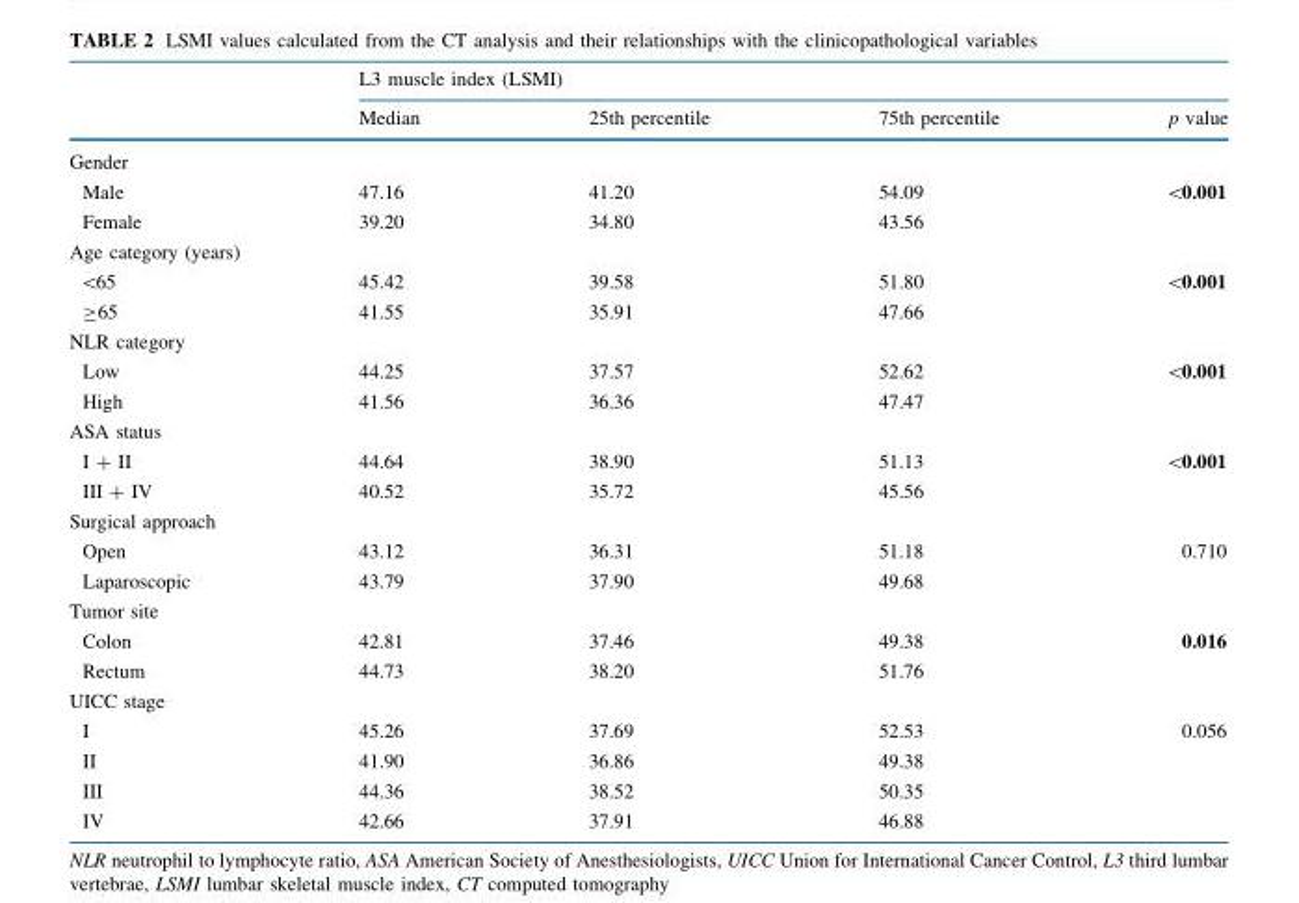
<table><thead><tr><td rowspan="2"></td><td colspan="4">L3 muscle index (LSMI)</td></tr><tr><td>Median</td><td>25th percentile</td><td>75th percentile</td><td>p value</td></tr></thead><tbody><tr><td colspan="5">Gender</td></tr><tr><td>Male</td><td>47.16</td><td>41.20</td><td>54.09</td><td rowspan="2">&lt;0.001</td></tr><tr><td>Female</td><td>39.20</td><td>34.80</td><td>43.56</td></tr><tr><td colspan="5">Age category (years)</td></tr><tr><td>&lt;65</td><td>45.42</td><td>39.58</td><td>51.80</td><td rowspan="2">&lt;0.001</td></tr><tr><td>≥65</td><td>41.55</td><td>35.91</td><td>47.66</td></tr><tr><td colspan="5">NLR category</td></tr><tr><td>Low</td><td>44.25</td><td>37.57</td><td>52.62</td><td rowspan="2">&lt;0.001</td></tr><tr><td>High</td><td>41.56</td><td>36.36</td><td>47.47</td></tr><tr><td colspan="5">ASA status</td></tr><tr><td>I + II</td><td>44.64</td><td>38.90</td><td>51.13</td><td rowspan="2">&lt;0.001</td></tr><tr><td>III + IV</td><td>40.52</td><td>35.72</td><td>45.56</td></tr><tr><td colspan="5">Surgical approach</td></tr><tr><td>Open</td><td>43.12</td><td>36.31</td><td>51.18</td><td rowspan="2">0.710</td></tr><tr><td>Laparoscopic</td><td>43.79</td><td>37.90</td><td>49.68</td></tr><tr><td colspan="5">Tumor site</td></tr><tr><td>Colon</td><td>42.81</td><td>37.46</td><td>49.38</td><td>0.016</td></tr><tr><td>Rectum</td><td>44.73</td><td>38.20</td><td>51.76</td><td></td></tr><tr><td colspan="5">UICC stage</td></tr><tr><td>I</td><td>45.26</td><td>37.69</td><td>52.53</td><td rowspan="4">0.056</td></tr><tr><td>II</td><td>41.90</td><td>36.86</td><td>49.38</td></tr><tr><td>III</td><td>44.36</td><td>38.52</td><td>50.35</td></tr><tr><td>IV</td><td>42.66</td><td>37.91</td><td>46.88</td></tr></tbody></table>